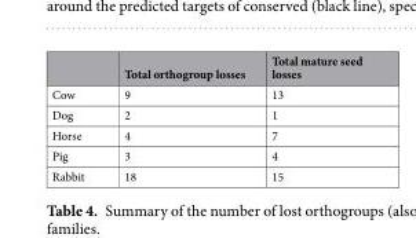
<table><thead><tr><td></td><td>Total orthogroup losses</td><td>Total mature seed losses</td></tr></thead><tbody><tr><td>Cow</td><td>9</td><td>13</td></tr><tr><td>Dog</td><td>2</td><td>1</td></tr><tr><td>Horse</td><td>4</td><td>7</td></tr><tr><td>Pig</td><td>3</td><td>4</td></tr><tr><td>Rabbit</td><td>18</td><td>15</td></tr></tbody></table>